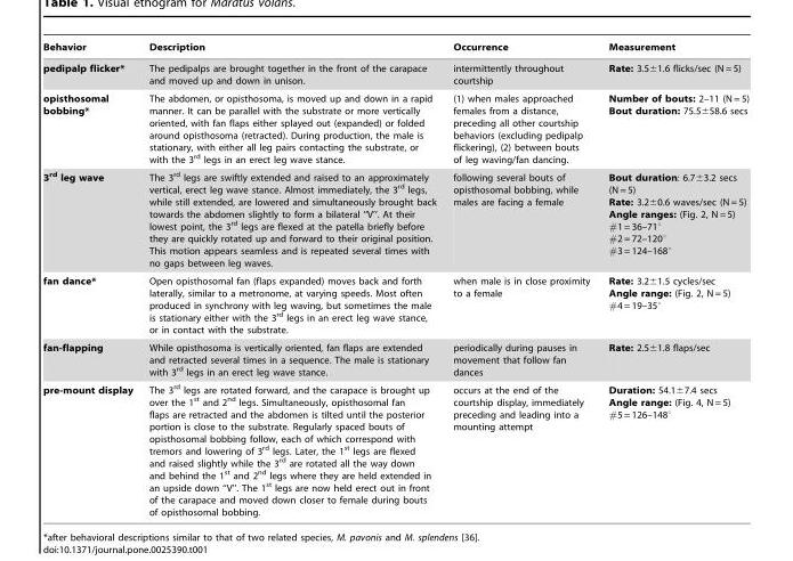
<table><thead><tr><td>Behavior</td><td>Description</td><td>Occurrence</td><td>Measurement</td></tr></thead><tbody><tr><td>pedipalp flicker*</td><td>The pedipalps are brought together in the front of the carapace and moved up and down in unison.</td><td>intermittently throughout courtship</td><td>Rate: 3.5±1.6 flicks/sec (N = 5)</td></tr><tr><td>opisthosomal bobbing*</td><td>The abdomen, or opisthosoma, is moved up and down in a rapid manner. It can be parallel with the substrate or more vertically oriented, with fan flaps either splayed out (expanded) or folded around opisthosoma (retracted). During production, the male is stationary, with either all leg pairs contacting the substrate, or with the 3<sup>rd</sup> legs in an erect leg wave stance.</td><td>(1) when males approached females from a distance, preceding all other courtship behaviors (excluding pedipalp flickering), (2) between bouts of leg waving/fan dancing.</td><td>Number of bouts: 2–11 (N = 5) Bout duration: 75.5±58.6 secs</td></tr><tr><td>3<sup>rd</sup> leg wave</td><td>The 3rd legs are swiftly extended and raised to an approximately vertical, erect leg wave stance. Almost immediately, the 3rd legs, while still extended, are lowered and simultaneously brought back towards the abdomen slightly to form a bilateral ‘‘V’’. At their lowest point, the 3rd legs are flexed at the patella briefly before they are quickly rotated up and forward to their original position. This motion appears seamless and is repeated several times with no gaps between leg waves.</td><td>following several bouts of opisthosomal bobbing, while males are facing a female</td><td>Bout duration: 6.7±3.2 secs (N = 5) Rate: 3.2±0.6 waves/sec (N = 5) Angle ranges: (Fig. 2, N = 5) #1 = 36–71° #2 = 72–120° #3 = 124–168°</td></tr><tr><td>fan dance*</td><td>Open opisthosomal fan (flaps expanded) moves back and forth laterally, similar to a metronome, at varying speeds. Most often produced in synchrony with leg waving, but sometimes the male is stationary either with the 3<sup>rd</sup> legs in an erect leg wave stance, or in contact with the substrate.</td><td>when male is in close proximity to a female</td><td>Rate: 3.2±1.5 cycles/sec Angle range: (Fig. 2, N = 5) #4 = 19–35°</td></tr><tr><td>fan-flapping</td><td>While opisthosoma is vertically oriented, fan flaps are extended and retracted several times in a sequence. The male is stationary with 3<sup>rd</sup> legs in an erect leg wave stance.</td><td>periodically during pauses in movement that follow fan dances</td><td>Rate: 2.5±1.8 flaps/sec</td></tr><tr><td>pre-mount display</td><td>The 3rd legs are rotated forward, and the carapace is brought up over the 1st and 2nd legs. Simultaneously, opisthosomal fan flaps are retracted and the abdomen is tilted until the posterior portion is close to the substrate. Regularly spaced bouts of opisthosomal bobbing follow, each of which correspond with tremors and lowering of 3rd legs. Later, the 1st legs are flexed and raised slightly while the 3rd are rotated all the way down and behind the 1st and 2nd legs where they are held extended in an upside down ‘‘V’’. The 1st legs are now held erect out in front of the carapace and moved down closer to female during bouts of opisthosomal bobbing.</td><td>occurs at the end of the courtship display, immediately preceding and leading into a mounting attempt</td><td>Duration: 54.1±7.4 secs Angle range: (Fig. 4, N = 5) #5 = 126–148°</td></tr></tbody></table>